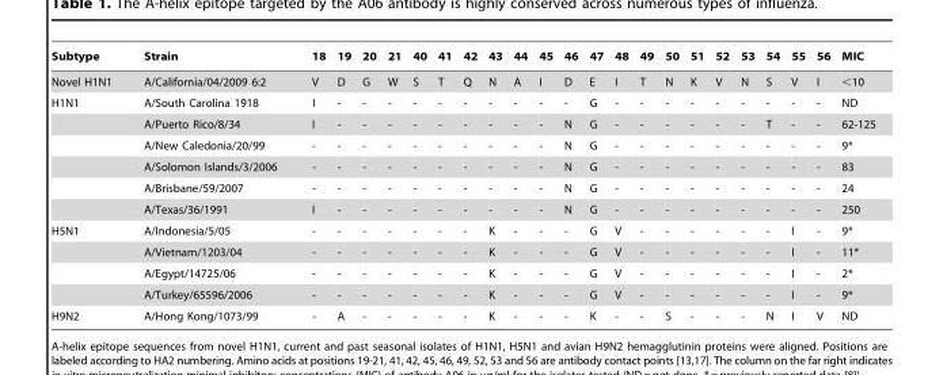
<table><thead><tr><td>Subtype</td><td>Strain</td><td>18</td><td>19</td><td>20</td><td>21</td><td>40</td><td>41</td><td>42</td><td>43</td><td>44</td><td>45</td><td>46</td><td>47</td><td>48</td><td>49</td><td>50</td><td>51</td><td>52</td><td>53</td><td>54</td><td>55</td><td>56</td><td>MIC</td></tr></thead><tbody><tr><td>Novel H1N1</td><td>A/California/04/2009 6:2</td><td>V</td><td>D</td><td>G</td><td>W</td><td>S</td><td>T</td><td>Q</td><td>N</td><td>A</td><td>I</td><td>D</td><td>E</td><td>I</td><td>T</td><td>N</td><td>K</td><td>V</td><td>N</td><td>S</td><td>V</td><td>I</td><td>&lt;10</td></tr><tr><td rowspan="6">H1N1</td><td>A/South Carolina 1918</td><td>I</td><td>-</td><td>-</td><td>-</td><td>-</td><td>-</td><td>-</td><td>-</td><td>-</td><td>-</td><td>-</td><td>G</td><td>-</td><td>-</td><td>-</td><td>-</td><td>-</td><td>-</td><td>-</td><td>-</td><td>-</td><td>ND</td></tr><tr><td>A/Puerto Rico/8/34</td><td>I</td><td>-</td><td>-</td><td>-</td><td>-</td><td>-</td><td>-</td><td>-</td><td>-</td><td>-</td><td>N</td><td>G</td><td>-</td><td>-</td><td>-</td><td>-</td><td>-</td><td>-</td><td>T</td><td>-</td><td>-</td><td>62-125</td></tr><tr><td>A/New Caledonia/20/99</td><td>-</td><td>-</td><td>-</td><td>-</td><td>-</td><td>-</td><td>-</td><td>-</td><td>-</td><td>-</td><td>N</td><td>G</td><td>-</td><td>-</td><td>-</td><td>-</td><td>-</td><td>-</td><td>-</td><td>-</td><td>-</td><td>9*</td></tr><tr><td>A/Solomon Islands/3/2006</td><td>-</td><td>-</td><td>-</td><td>-</td><td>-</td><td>-</td><td>-</td><td>-</td><td>-</td><td>-</td><td>N</td><td>G</td><td>-</td><td>-</td><td>-</td><td>-</td><td>-</td><td>-</td><td>-</td><td>-</td><td>-</td><td>83</td></tr><tr><td>A/Brisbane/59/2007</td><td>-</td><td>-</td><td>-</td><td>-</td><td>-</td><td>-</td><td>-</td><td>-</td><td>-</td><td>-</td><td>N</td><td>G</td><td>-</td><td>-</td><td>-</td><td>-</td><td>-</td><td>-</td><td>-</td><td>-</td><td>-</td><td>24</td></tr><tr><td>A/Texas/36/1991</td><td>I</td><td>-</td><td>-</td><td>-</td><td>-</td><td>-</td><td>-</td><td>-</td><td>-</td><td>-</td><td>N</td><td>G</td><td>-</td><td>-</td><td>-</td><td>-</td><td>-</td><td>-</td><td>-</td><td>-</td><td>-</td><td>250</td></tr><tr><td rowspan="4">H5N1</td><td>A/Indonesia/5/05</td><td>-</td><td>-</td><td>-</td><td>-</td><td>-</td><td>-</td><td>-</td><td>K</td><td>-</td><td>-</td><td>-</td><td>G</td><td>V</td><td>-</td><td>-</td><td>-</td><td>-</td><td>-</td><td>-</td><td>I</td><td>-</td><td>9*</td></tr><tr><td>A/Vietnam/1203/04</td><td>-</td><td>-</td><td>-</td><td>-</td><td>-</td><td>-</td><td>-</td><td>K</td><td>-</td><td>-</td><td>-</td><td>G</td><td>V</td><td>-</td><td>-</td><td>-</td><td>-</td><td>-</td><td>-</td><td>I</td><td>-</td><td>11*</td></tr><tr><td>A/Egypt/14725/06</td><td>-</td><td>-</td><td>-</td><td>-</td><td>-</td><td>-</td><td>-</td><td>K</td><td>-</td><td>-</td><td>-</td><td>G</td><td>V</td><td>-</td><td>-</td><td>-</td><td>-</td><td>-</td><td>-</td><td>I</td><td>-</td><td>2*</td></tr><tr><td>A/Turkey/65596/2006</td><td>-</td><td>-</td><td>-</td><td>-</td><td>-</td><td>-</td><td>-</td><td>K</td><td>-</td><td>-</td><td>-</td><td>G</td><td>V</td><td>-</td><td>-</td><td>-</td><td>-</td><td>-</td><td>-</td><td>I</td><td>-</td><td>9*</td></tr><tr><td>H9N2</td><td>A/Hong Kong/1073/99</td><td>-</td><td>A</td><td>-</td><td>-</td><td>-</td><td>-</td><td>-</td><td>K</td><td>-</td><td>-</td><td>-</td><td>K</td><td>-</td><td>-</td><td>S</td><td>-</td><td>-</td><td>-</td><td>N</td><td>I</td><td>V</td><td>ND</td></tr></tbody></table>